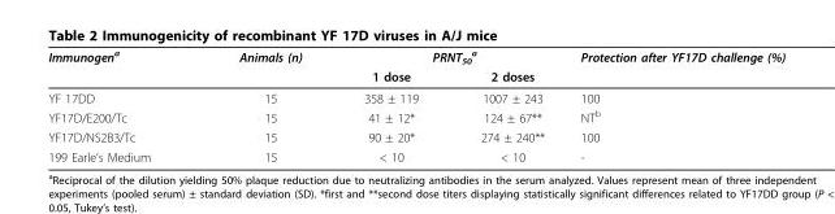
<table><thead><tr><td rowspan="2">Immunogen<sup>a</sup></td><td rowspan="2">Animals (n)</td><td colspan="2">PRNT<sub>50</sub> <sup>a</sup></td><td rowspan="2">Protection after YF17D challenge (%)</td></tr><tr><td>1 dose</td><td>2 doses</td></tr></thead><tbody><tr><td>YF 17DD</td><td>15</td><td>358 ± 119</td><td>1007 ± 243</td><td>100</td></tr><tr><td>YF17D/E200/Tc</td><td>15</td><td>41 ± 12*</td><td>124 ± 67**</td><td>NT<sup>b</sup></td></tr><tr><td>YF17D/NS2B3/Tc</td><td>15</td><td>90 ± 20*</td><td>274 ± 240**</td><td>100</td></tr><tr><td>199 Earle’s Medium</td><td>15</td><td>&lt; 10</td><td>&lt; 10</td><td>-</td></tr></tbody></table>